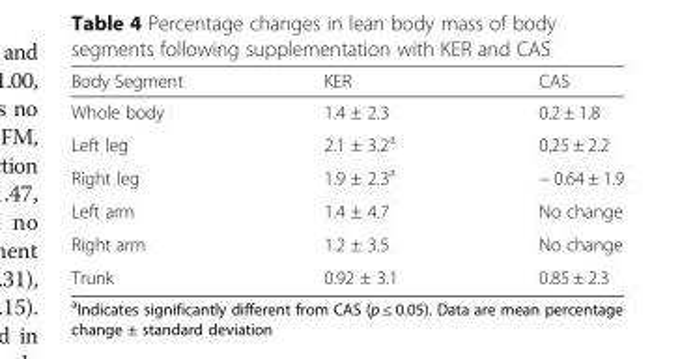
<table><thead><tr><td>Body Segment</td><td>KER</td><td>CAS</td></tr></thead><tbody><tr><td>Whole body</td><td>1.4 ± 2.3</td><td>0.2 ± 1.8</td></tr><tr><td>Left leg</td><td>2.1 ± 3.2<sup>a</sup></td><td>0.25 ± 2.2</td></tr><tr><td>Right leg</td><td>1.9 ± 2.3<sup>a</sup></td><td>− 0.64 ± 1.9</td></tr><tr><td>Left arm</td><td>1.4 ± 4.7</td><td>No change</td></tr><tr><td>Right arm</td><td>1.2 ± 3.5</td><td>No change</td></tr><tr><td>Trunk</td><td>0.92 ± 3.1</td><td>0.85 ± 2.3</td></tr></tbody></table>